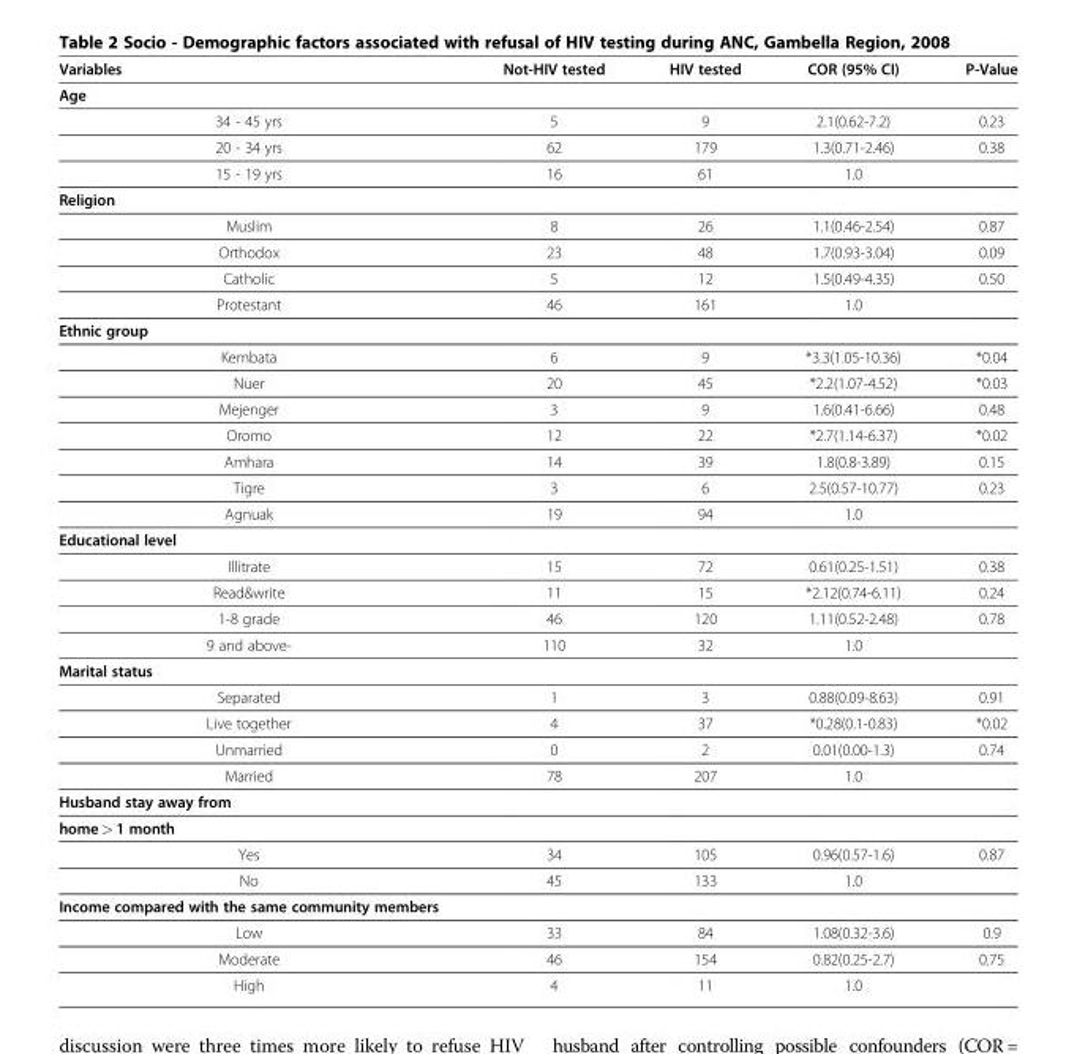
<table><thead><tr><td>Variables</td><td>Not-HIV tested</td><td>HIV tested</td><td>COR (95% CI)</td><td>P-Value</td></tr></thead><tbody><tr><td colspan="5">Age</td></tr><tr><td>34 - 45 yrs</td><td>5</td><td>9</td><td>2.1(0.62-7.2)</td><td>0.23</td></tr><tr><td>20 - 34 yrs</td><td>62</td><td>179</td><td>1.3(0.71-2.46)</td><td>0.38</td></tr><tr><td>15 - 19 yrs</td><td>16</td><td>61</td><td>1.0</td><td></td></tr><tr><td colspan="5">Religion</td></tr><tr><td>Muslim</td><td>8</td><td>26</td><td>1.1(0.46-2.54)</td><td>0.87</td></tr><tr><td>Orthodox</td><td>23</td><td>48</td><td>1.7(0.93-3.04)</td><td>0.09</td></tr><tr><td>Catholic</td><td>5</td><td>12</td><td>1.5(0.49-4.35)</td><td>0.50</td></tr><tr><td>Protestant</td><td>46</td><td>161</td><td>1.0</td><td></td></tr><tr><td colspan="5">Ethnic group</td></tr><tr><td>Kembata</td><td>6</td><td>9</td><td>*3.3(1.05-10.36)</td><td>*0.04</td></tr><tr><td>Nuer</td><td>20</td><td>45</td><td>*2.2(1.07-4.52)</td><td>*0.03</td></tr><tr><td>Mejenger</td><td>3</td><td>9</td><td>1.6(0.41-6.66)</td><td>0.48</td></tr><tr><td>Oromo</td><td>12</td><td>22</td><td>*2.7(1.14-6.37)</td><td>*0.02</td></tr><tr><td>Amhara</td><td>14</td><td>39</td><td>1.8(0.8-3.89)</td><td>0.15</td></tr><tr><td>Tigre</td><td>3</td><td>6</td><td>2.5(0.57-10.77)</td><td>0.23</td></tr><tr><td>Agnuak</td><td>19</td><td>94</td><td>1.0</td><td></td></tr><tr><td colspan="5">Educational level</td></tr><tr><td>Illitrate</td><td>15</td><td>72</td><td>0.61(0.25-1.51)</td><td>0.38</td></tr><tr><td>Read&amp;write</td><td>11</td><td>15</td><td>*2.12(0.74-6.11)</td><td>0.24</td></tr><tr><td>1-8 grade</td><td>46</td><td>120</td><td>1.11(0.52-2.48)</td><td>0.78</td></tr><tr><td>9 and above-</td><td>110</td><td>32</td><td>1.0</td><td></td></tr><tr><td colspan="5">Marital status</td></tr><tr><td>Separated</td><td>1</td><td>3</td><td>0.88(0.09-8.63)</td><td>0.91</td></tr><tr><td>Live together</td><td>4</td><td>37</td><td>*0.28(0.1-0.83)</td><td>*0.02</td></tr><tr><td>Unmarried</td><td>0</td><td>2</td><td>0.01(0.00-1.3)</td><td>0.74</td></tr><tr><td>Married</td><td>78</td><td>207</td><td>1.0</td><td></td></tr><tr><td colspan="5">Husband stay away from</td></tr><tr><td colspan="5">home &gt; 1 month</td></tr><tr><td>Yes</td><td>34</td><td>105</td><td>0.96(0.57-1.6)</td><td>0.87</td></tr><tr><td>No</td><td>45</td><td>133</td><td>1.0</td><td></td></tr><tr><td colspan="5">Income compared with the same community members</td></tr><tr><td>Low</td><td>33</td><td>84</td><td>1.08(0.32-3.6)</td><td>0.9</td></tr><tr><td>Moderate</td><td>46</td><td>154</td><td>0.82(0.25-2.7)</td><td>0.75</td></tr><tr><td>High</td><td>4</td><td>11</td><td>1.0</td><td></td></tr></tbody></table>